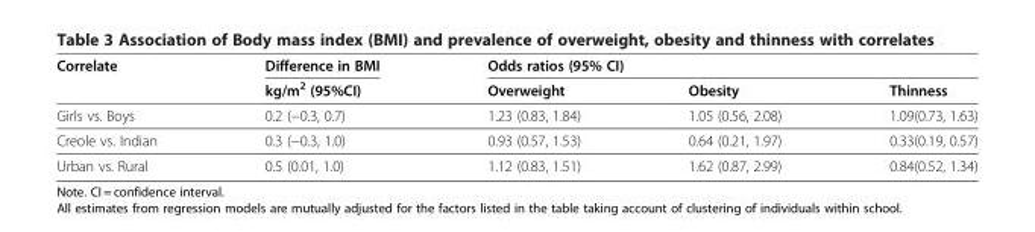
<table><thead><tr><td rowspan="2">Correlate</td><td rowspan="2">Difference in BMI kg/m<sup>2</sup> (95%CI)</td><td colspan="3">Odds ratios (95% CI)</td></tr><tr><td>Overweight</td><td>Obesity</td><td>Thinness</td></tr></thead><tbody><tr><td>Girls vs. Boys</td><td>0.2 (−0.3, 0.7)</td><td>1.23 (0.83, 1.84)</td><td>1.05 (0.56, 2.08)</td><td>1.09(0.73, 1.63)</td></tr><tr><td>Creole vs. Indian</td><td>0.3 (−0.3, 1.0)</td><td>0.93 (0.57, 1.53)</td><td>0.64 (0.21, 1.97)</td><td>0.33(0.19, 0.57)</td></tr><tr><td>Urban vs. Rural</td><td>0.5 (0.01, 1.0)</td><td>1.12 (0.83, 1.51)</td><td>1.62 (0.87, 2.99)</td><td>0.84(0.52, 1.34)</td></tr></tbody></table>